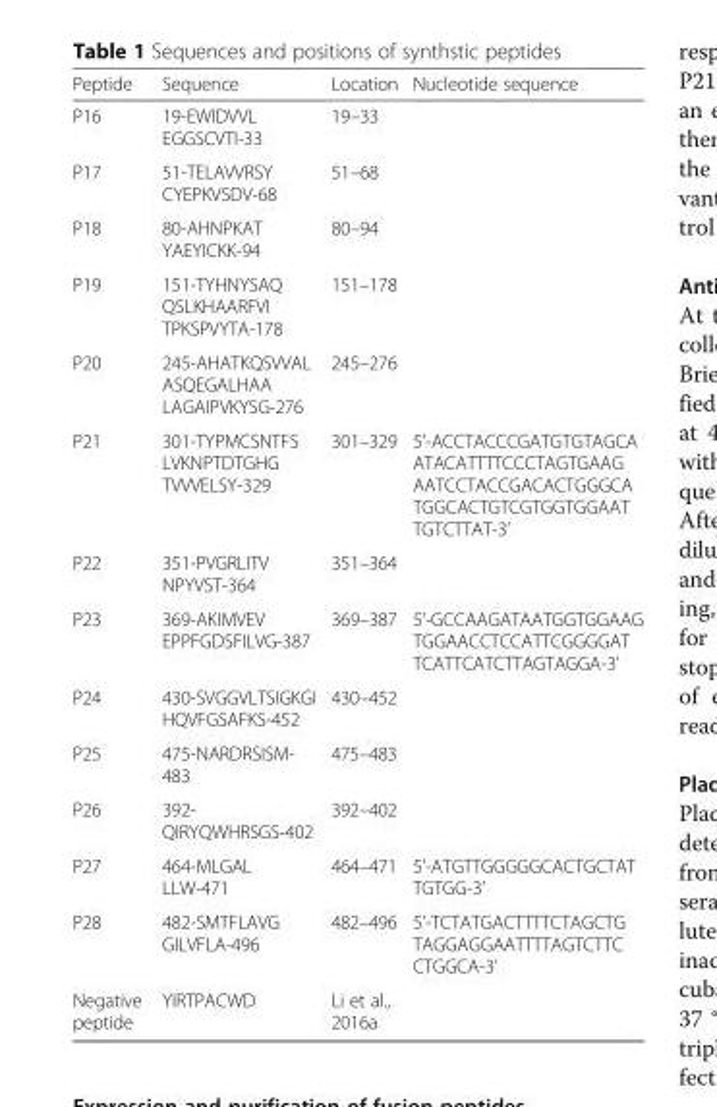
<table><thead><tr><td>Peptide</td><td>Sequence</td><td>Location</td><td>Nucleotide sequence</td></tr></thead><tbody><tr><td>P16</td><td>19-EWIDVVL EGGSCVTI-33</td><td>19–33</td><td></td></tr><tr><td>P17</td><td>51-TELAVVRSY CYEPKVSDV-68</td><td>51–68</td><td></td></tr><tr><td>P18</td><td>80-AHNPKAT YAEYICKK-94</td><td>80–94</td><td></td></tr><tr><td>P19</td><td>151-TYHNYSAQ QSLKHAARFVI TPKSPVYTA-178</td><td>151–178</td><td></td></tr><tr><td>P20</td><td>245-AHATKQSVVAL ASQEGALHAA LAGAIPVKYSG-276</td><td>245–276</td><td></td></tr><tr><td>P21</td><td>301-TYPMCSNTFS LVKNPTDTGHG TVVVELSY-329</td><td>301–329</td><td>5’-ACCTACCCGATGTGTAGCA ATACATTTTCCCTAGTGAAG AATCCTACCGACACTGGGCA TGGCACTGTCGTGGTGGAAT TGTCTTAT-3’</td></tr><tr><td>P22</td><td>351-PVGRLITV NPYVST-364</td><td>351–364</td><td></td></tr><tr><td>P23</td><td>369-AKIMVEV EPPFGDSFILVG-387</td><td>369–387</td><td>5’-GCCAAGATAATGGTGGAAG TGGAACCTCCATTCGGGGAT TCATTCATCTTAGTAGGA-3’</td></tr><tr><td>P24</td><td>430-SVGGVLTSIGKGI HQVFGSAFKS-452</td><td>430–452</td><td></td></tr><tr><td>P25</td><td>475-NARDRSISM- 483</td><td>475–483</td><td></td></tr><tr><td>P26</td><td>392- QIRYQWHRSGS-402</td><td>392–402</td><td></td></tr><tr><td>P27</td><td>464-MLGAL LLW-471</td><td>464–471</td><td>5’-ATGTTGGGGGCACTGCTAT TGTGG-3’</td></tr><tr><td>P28</td><td>482-SMTFLAVG GILVFLA-496</td><td>482–496</td><td>5’-TCTATGACTTTTCTAGCTG TAGGAGGAATTTTAGTCTTC CTGGCA-3’</td></tr><tr><td>Negative peptide</td><td>YIRTPACWD</td><td>Li et al., 2016a</td><td></td></tr></tbody></table>